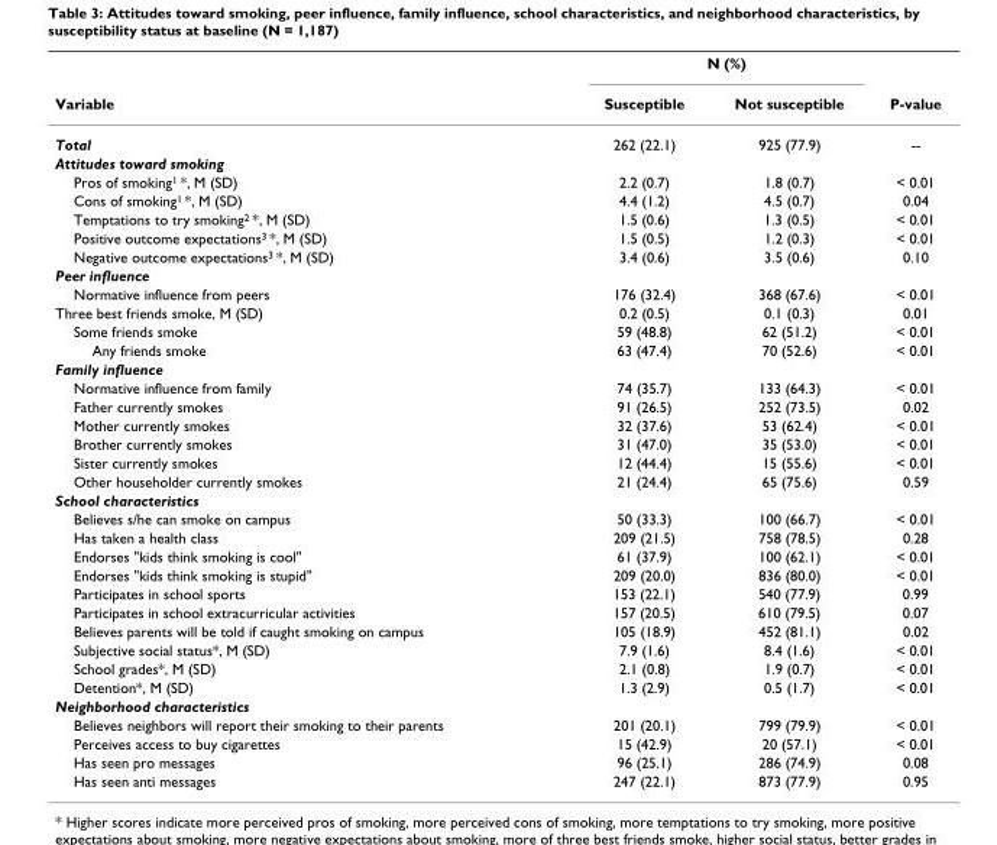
<table><thead><tr><td rowspan="2">Variable</td><td colspan="2">N (%)</td><td rowspan="2">P-value</td></tr><tr><td>Susceptible</td><td>Not susceptible</td></tr></thead><tbody><tr><td>Total</td><td>262 (22.1)</td><td>925 (77.9)</td><td>--</td></tr><tr><td colspan="4">Attitudes toward smoking</td></tr><tr><td>Pros of smoking<sup>1</sup> *, M (SD)</td><td>2.2 (0.7)</td><td>1.8 (0.7)</td><td>&lt; 0.01</td></tr><tr><td>Cons of smoking<sup>1</sup> *, M (SD)</td><td>4.4 (1.2)</td><td>4.5 (0.7)</td><td>0.04</td></tr><tr><td>Temptations to try smoking<sup>2</sup> *, M (SD)</td><td>1.5 (0.6)</td><td>1.3 (0.5)</td><td>&lt; 0.01</td></tr><tr><td>Positive outcome expectations<sup>3</sup> *, M (SD)</td><td>1.5 (0.5)</td><td>1.2 (0.3)</td><td>&lt; 0.01</td></tr><tr><td>Negative outcome expectations<sup>3</sup> *, M (SD)</td><td>3.4 (0.6)</td><td>3.5 (0.6)</td><td>0.10</td></tr><tr><td colspan="4">Peer influence</td></tr><tr><td>Normative influence from peers</td><td>176 (32.4)</td><td>368 (67.6)</td><td>&lt; 0.01</td></tr><tr><td>Three best friends smoke, M (SD)</td><td>0.2 (0.5)</td><td>0.1 (0.3)</td><td>0.01</td></tr><tr><td>Some friends smoke</td><td>59 (48.8)</td><td>62 (51.2)</td><td>&lt; 0.01</td></tr><tr><td>Any friends smoke</td><td>63 (47.4)</td><td>70 (52.6)</td><td>&lt; 0.01</td></tr><tr><td colspan="4">Family influence</td></tr><tr><td>Normative influence from family</td><td>74 (35.7)</td><td>133 (64.3)</td><td>&lt; 0.01</td></tr><tr><td>Father currently smokes</td><td>91 (26.5)</td><td>252 (73.5)</td><td>0.02</td></tr><tr><td>Mother currently smokes</td><td>32 (37.6)</td><td>53 (62.4)</td><td>&lt; 0.01</td></tr><tr><td>Brother currently smokes</td><td>31 (47.0)</td><td>35 (53.0)</td><td>&lt; 0.01</td></tr><tr><td>Sister currently smokes</td><td>12 (44.4)</td><td>15 (55.6)</td><td>&lt; 0.01</td></tr><tr><td>Other householder currently smokes</td><td>21 (24.4)</td><td>65 (75.6)</td><td>0.59</td></tr><tr><td colspan="4">School characteristics</td></tr><tr><td>Believes s/he can smoke on campus</td><td>50 (33.3)</td><td>100 (66.7)</td><td>&lt; 0.01</td></tr><tr><td>Has taken a health class</td><td>209 (21.5)</td><td>758 (78.5)</td><td>0.28</td></tr><tr><td>Endorses &quot;kids think smoking is cool&quot;</td><td>61 (37.9)</td><td>100 (62.1)</td><td>&lt; 0.01</td></tr><tr><td>Endorses &quot;kids think smoking is stupid&quot;</td><td>209 (20.0)</td><td>836 (80.0)</td><td>&lt; 0.01</td></tr><tr><td>Participates in school sports</td><td>153 (22.1)</td><td>540 (77.9)</td><td>0.99</td></tr><tr><td>Participates in school extracurricular activities</td><td>157 (20.5)</td><td>610 (79.5)</td><td>0.07</td></tr><tr><td>Believes parents will be told if caught smoking on campus</td><td>105 (18.9)</td><td>452 (81.1)</td><td>0.02</td></tr><tr><td>Subjective social status*, M (SD)</td><td>7.9 (1.6)</td><td>8.4 (1.6)</td><td>&lt; 0.01</td></tr><tr><td>School grades*, M (SD)</td><td>2.1 (0.8)</td><td>1.9 (0.7)</td><td>&lt; 0.01</td></tr><tr><td>Detention*, M (SD)</td><td>1.3 (2.9)</td><td>0.5 (1.7)</td><td>&lt; 0.01</td></tr><tr><td colspan="4">Neighborhood characteristics</td></tr><tr><td>Believes neighbors will report their smoking to their parents</td><td>201 (20.1)</td><td>799 (79.9)</td><td>&lt; 0.01</td></tr><tr><td>Perceives access to buy cigarettes</td><td>15 (42.9)</td><td>20 (57.1)</td><td>&lt; 0.01</td></tr><tr><td>Has seen pro messages</td><td>96 (25.1)</td><td>286 (74.9)</td><td>0.08</td></tr><tr><td>Has seen anti messages</td><td>247 (22.1)</td><td>873 (77.9)</td><td>0.95</td></tr></tbody></table>